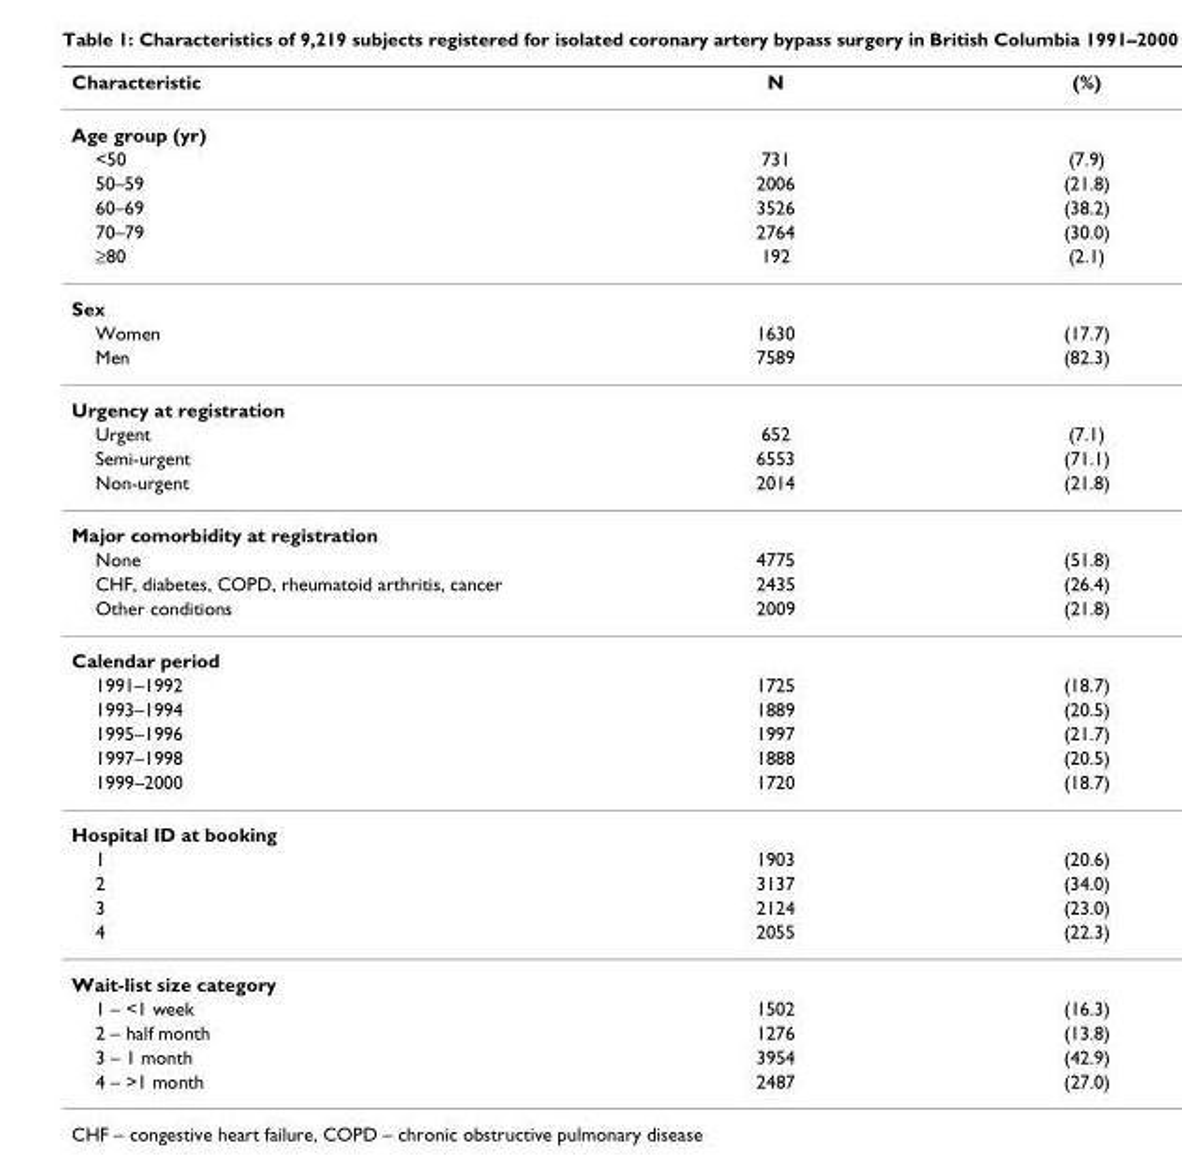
<table><thead><tr><td>Characteristic</td><td>N</td><td>(%)</td></tr></thead><tbody><tr><td colspan="3">Age group (yr)</td></tr><tr><td>&lt;50</td><td>731</td><td>(7.9)</td></tr><tr><td>50–59</td><td>2006</td><td>(21.8)</td></tr><tr><td>60–69</td><td>3526</td><td>(38.2)</td></tr><tr><td>70–79</td><td>2764</td><td>(30.0)</td></tr><tr><td>≥80</td><td>192</td><td>(2.1)</td></tr><tr><td colspan="3">Sex</td></tr><tr><td>Women</td><td>1630</td><td>(17.7)</td></tr><tr><td>Men</td><td>7589</td><td>(82.3)</td></tr><tr><td colspan="3">Urgency at registration</td></tr><tr><td>Urgent</td><td>652</td><td>(7.1)</td></tr><tr><td>Semi-urgent</td><td>6553</td><td>(71.1)</td></tr><tr><td>Non-urgent</td><td>2014</td><td>(21.8)</td></tr><tr><td colspan="3">Major comorbidity at registration</td></tr><tr><td>None</td><td>4775</td><td>(51.8)</td></tr><tr><td>CHF, diabetes, COPD, rheumatoid arthritis, cancer</td><td>2435</td><td>(26.4)</td></tr><tr><td>Other conditions</td><td>2009</td><td>(21.8)</td></tr><tr><td colspan="3">Calendar period</td></tr><tr><td>1991–1992</td><td>1725</td><td>(18.7)</td></tr><tr><td>1993–1994</td><td>1889</td><td>(20.5)</td></tr><tr><td>1995–1996</td><td>1997</td><td>(21.7)</td></tr><tr><td>1997–1998</td><td>1888</td><td>(20.5)</td></tr><tr><td>1999–2000</td><td>1720</td><td>(18.7)</td></tr><tr><td colspan="3">Hospital ID at booking</td></tr><tr><td>1</td><td>1903</td><td>(20.6)</td></tr><tr><td>2</td><td>3137</td><td>(34.0)</td></tr><tr><td>3</td><td>2124</td><td>(23.0)</td></tr><tr><td>4</td><td>2055</td><td>(22.3)</td></tr><tr><td colspan="3">Wait-list size category</td></tr><tr><td>1 – &lt;1 week</td><td>1502</td><td>(16.3)</td></tr><tr><td>2 – half month</td><td>1276</td><td>(13.8)</td></tr><tr><td>3 – 1 month</td><td>3954</td><td>(42.9)</td></tr><tr><td>4 – &gt;1 month</td><td>2487</td><td>(27.0)</td></tr></tbody></table>